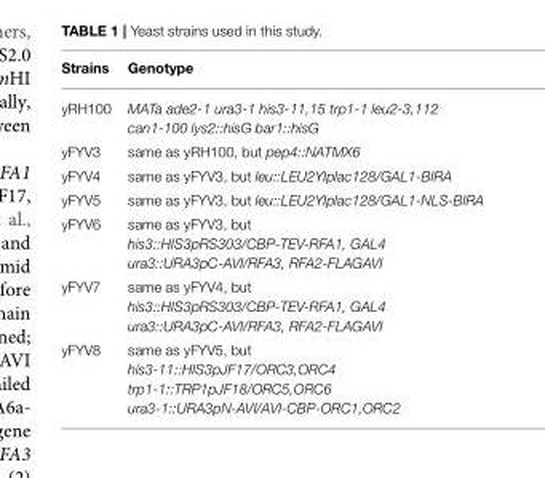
<table><thead><tr><td>Strains</td><td>Genotype</td></tr></thead><tbody><tr><td>yRH100</td><td>MATa ade2-1 ura3-1 his3-11,15 trp1-1 leu2-3,112 can1-100 lys2::hisG bar1::hisG</td></tr><tr><td>yFYV3</td><td>same as yRH100, but pep4::NATMX6</td></tr><tr><td>yFYV4</td><td>same as yFYV3, but leu::LEU2YIplac128/GAL1-BIRA</td></tr><tr><td>yFYV5</td><td>same as yFYV3, but leu::LEU2YIplac128/GAL1-NLS-BIRA</td></tr><tr><td>yFYV6</td><td>same as yFYV3, but his3::HIS3pRS303/CBP-TEV-RFA1, GAL4 ura3::URA3pC-AVI/RFA3, RFA2-FLAGAVI</td></tr><tr><td>yFYV7</td><td>same as yFYV4, but his3::HIS3pRS303/CBP-TEV-RFA1, GAL4 ura3::URA3pC-AVI/RFA3, RFA2-FLAGAVI</td></tr><tr><td>yFYV8</td><td>same as yFYV5, but his3-11::HIS3pJF17/ORC3,ORC4 trp1-1::TRP1pJF18/ORC5,ORC6 ura3-1::URA3pN-AVI/AVI-CBP-ORC1,ORC2</td></tr></tbody></table>